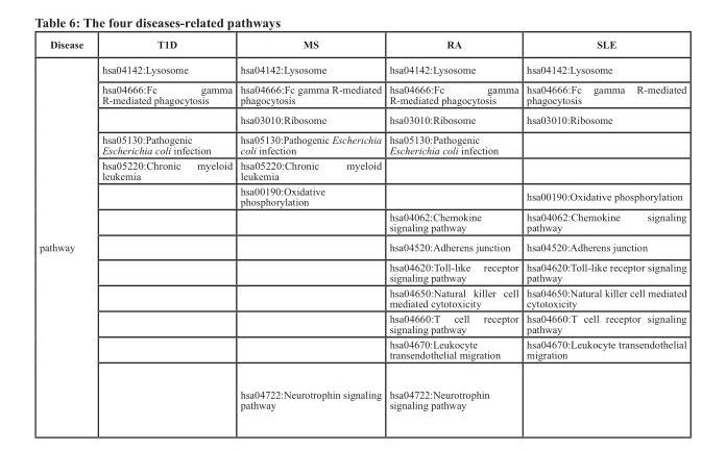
<table><thead><tr><td>Disease</td><td>T1D</td><td>MS</td><td>RA</td><td>SLE</td></tr></thead><tbody><tr><td rowspan="13">pathway</td><td>hsa04142:Lysosome</td><td>hsa04142:Lysosome</td><td>hsa04142:Lysosome</td><td>hsa04142:Lysosome</td></tr><tr><td>hsa04666:Fc gamma R-mediated phagocytosis</td><td>hsa04666:Fc gamma R-mediated phagocytosis</td><td>hsa04666:Fc gamma R-mediated phagocytosis</td><td>hsa04666:Fc gamma R-mediated phagocytosis</td></tr><tr><td></td><td>hsa03010:Ribosome</td><td>hsa03010:Ribosome</td><td>hsa03010:Ribosome</td></tr><tr><td>hsa05130:Pathogenic Escherichia coli infection</td><td>hsa05130:Pathogenic Escherichia coli infection</td><td>hsa05130:Pathogenic Escherichia coli infection</td><td></td></tr><tr><td>hsa05220:Chronic myeloid leukemia</td><td>hsa05220:Chronic myeloid leukemia</td><td></td><td></td></tr><tr><td></td><td>hsa00190:Oxidative phosphorylation</td><td></td><td>hsa00190:Oxidative phosphorylation</td></tr><tr><td></td><td></td><td>hsa04062:Chemokine signaling pathway</td><td>hsa04062:Chemokine signaling pathway</td></tr><tr><td></td><td></td><td>hsa04520:Adherens junction</td><td>hsa04520:Adherens junction</td></tr><tr><td></td><td></td><td>hsa04620:Toll-like receptor signaling pathway</td><td>hsa04620:Toll-like receptor signaling pathway</td></tr><tr><td></td><td></td><td>hsa04650:Natural killer cell mediated cytotoxicity</td><td>hsa04650:Natural killer cell mediated cytotoxicity</td></tr><tr><td></td><td></td><td>hsa04660:T cell receptor signaling pathway</td><td>hsa04660:T cell receptor signaling pathway</td></tr><tr><td></td><td></td><td>hsa04670:Leukocyte transendothelial migration</td><td>hsa04670:Leukocyte transendothelial migration</td></tr><tr><td></td><td>hsa04722:Neurotrophin signaling pathway</td><td>hsa04722:Neurotrophin signaling pathway</td><td></td></tr></tbody></table>